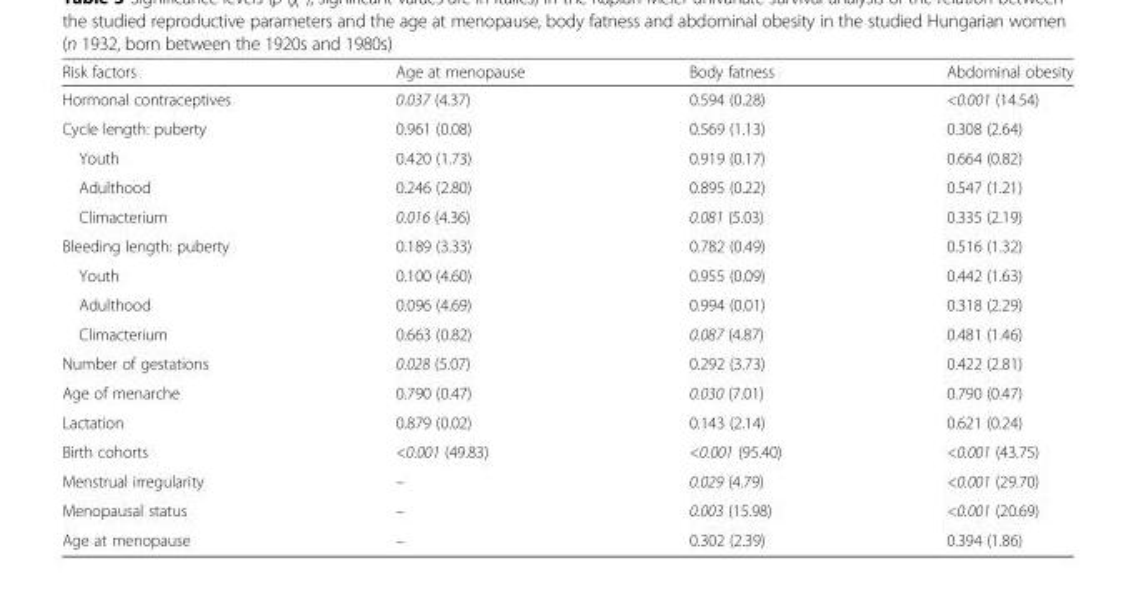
<table><thead><tr><td>Risk factors</td><td>Age at menopause</td><td>Body fatness</td><td>Abdominal obesity</td></tr></thead><tbody><tr><td>Hormonal contraceptives</td><td>0.037 (4.37)</td><td>0.594 (0.28)</td><td>&lt;0.001 (14.54)</td></tr><tr><td>Cycle length: puberty</td><td>0.961 (0.08)</td><td>0.569 (1.13)</td><td>0.308 (2.64)</td></tr><tr><td>Youth</td><td>0.420 (1.73)</td><td>0.919 (0.17)</td><td>0.664 (0.82)</td></tr><tr><td>Adulthood</td><td>0.246 (2.80)</td><td>0.895 (0.22)</td><td>0.547 (1.21)</td></tr><tr><td>Climacterium</td><td>0.016 (4.36)</td><td>0.081 (5.03)</td><td>0.335 (2.19)</td></tr><tr><td>Bleeding length: puberty</td><td>0.189 (3.33)</td><td>0.782 (0.49)</td><td>0.516 (1.32)</td></tr><tr><td>Youth</td><td>0.100 (4.60)</td><td>0.955 (0.09)</td><td>0.442 (1.63)</td></tr><tr><td>Adulthood</td><td>0.096 (4.69)</td><td>0.994 (0.01)</td><td>0.318 (2.29)</td></tr><tr><td>Climacterium</td><td>0.663 (0.82)</td><td>0.087 (4.87)</td><td>0.481 (1.46)</td></tr><tr><td>Number of gestations</td><td>0.028 (5.07)</td><td>0.292 (3.73)</td><td>0.422 (2.81)</td></tr><tr><td>Age of menarche</td><td>0.790 (0.47)</td><td>0.030 (7.01)</td><td>0.790 (0.47)</td></tr><tr><td>Lactation</td><td>0.879 (0.02)</td><td>0.143 (2.14)</td><td>0.621 (0.24)</td></tr><tr><td>Birth cohorts</td><td>&lt;0.001 (49.83)</td><td>&lt;0.001 (95.40)</td><td>&lt;0.001 (43.75)</td></tr><tr><td>Menstrual irregularity</td><td>–</td><td>0.029 (4.79)</td><td>&lt;0.001 (29.70)</td></tr><tr><td>Menopausal status</td><td>–</td><td>0.003 (15.98)</td><td>&lt;0.001 (20.69)</td></tr><tr><td>Age at menopause</td><td>–</td><td>0.302 (2.39)</td><td>0.394 (1.86)</td></tr></tbody></table>